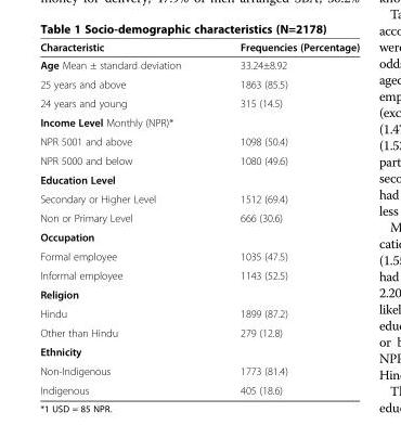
<table><thead><tr><td>Characteristic</td><td>Frequencies (Percentage)</td></tr></thead><tbody><tr><td>Age Mean ± standard deviation</td><td>33.24±8.92</td></tr><tr><td>25 years and above</td><td>1863 (85.5)</td></tr><tr><td>24 years and young</td><td>315 (14.5)</td></tr><tr><td colspan="2">Income Level Monthly (NPR)*</td></tr><tr><td>NPR 5001 and above</td><td>1098 (50.4)</td></tr><tr><td>NPR 5000 and below</td><td>1080 (49.6)</td></tr><tr><td colspan="2">Education Level</td></tr><tr><td>Secondary or Higher Level</td><td>1512 (69.4)</td></tr><tr><td>Non or Primary Level</td><td>666 (30.6)</td></tr><tr><td colspan="2">Occupation</td></tr><tr><td>Formal employee</td><td>1035 (47.5)</td></tr><tr><td>Informal employee</td><td>1143 (52.5)</td></tr><tr><td colspan="2">Religion</td></tr><tr><td>Hindu</td><td>1899 (87.2)</td></tr><tr><td>Other than Hindu</td><td>279 (12.8)</td></tr><tr><td colspan="2">Ethnicity</td></tr><tr><td>Non-Indigenous</td><td>1773 (81.4)</td></tr><tr><td>Indigenous</td><td>405 (18.6)</td></tr></tbody></table>